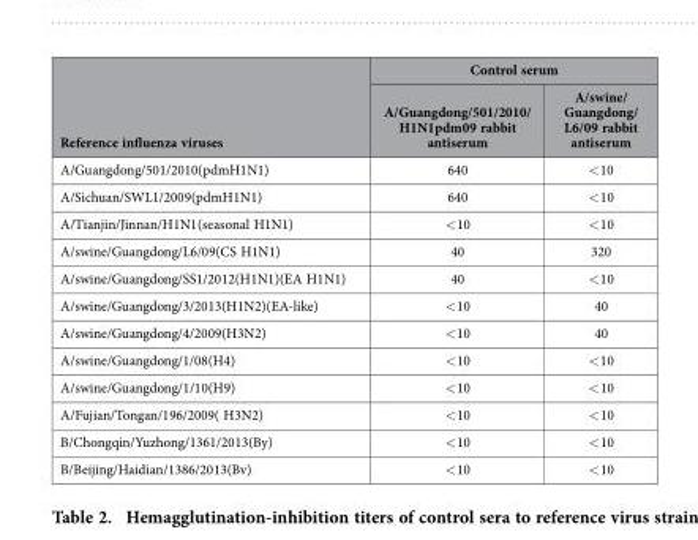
<table><thead><tr><td rowspan="2">Reference influenza viruses</td><td colspan="2">Control serum</td></tr><tr><td>A/Guangdong/501/2010/ H1N1pdm09 rabbit antiserum</td><td>A/swine/ Guangdong/ L6/09 rabbit antiserum</td></tr></thead><tbody><tr><td>A/Guangdong/501/2010(pdmH1N1)</td><td>640</td><td>&lt; 10</td></tr><tr><td>A/Sichuan/SWL1/2009(pdmH1N1)</td><td>640</td><td>&lt; 10</td></tr><tr><td>A/Tianjin/Jinnan/H1N1(seasonal H1N1)</td><td>&lt; 10</td><td>&lt; 10</td></tr><tr><td>A/swine/Guangdong/L6/09(CS H1N1)</td><td>40</td><td>320</td></tr><tr><td>A/swine/Guangdong/SS1/2012(H1N1)(EA H1N1)</td><td>40</td><td>&lt; 10</td></tr><tr><td>A/swine/Guangdong/3/2013(H1N2)(EA-like)</td><td>&lt; 10</td><td>40</td></tr><tr><td>A/swine/Guangdong/4/2009(H3N2)</td><td>&lt; 10</td><td>40</td></tr><tr><td>A/swine/Guangdong/1/08(H4)</td><td>&lt; 10</td><td>&lt; 10</td></tr><tr><td>A/swine/Guangdong/1/10(H9)</td><td>&lt; 10</td><td>&lt; 10</td></tr><tr><td>A/Fujian/Tongan/196/2009( H3N2)</td><td>&lt; 10</td><td>&lt; 10</td></tr><tr><td>B/Chongqin/Yuzhong/1361/2013(By)</td><td>&lt; 10</td><td>&lt; 10</td></tr><tr><td>B/Beijing/Haidian/1386/2013(Bv)</td><td>&lt; 10</td><td>&lt; 10</td></tr></tbody></table>